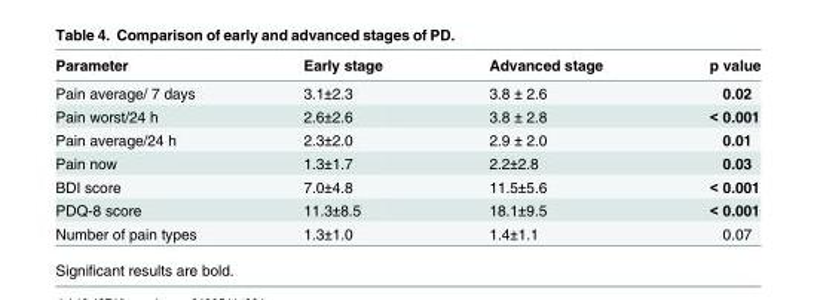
<table><thead><tr><td>Parameter</td><td>Early stage</td><td>Advanced stage</td><td>p value</td></tr></thead><tbody><tr><td>Pain average/ 7 days</td><td>3.1±2.3</td><td>3.8 ± 2.6</td><td>0.02</td></tr><tr><td>Pain worst/24 h</td><td>2.6±2.6</td><td>3.8 ± 2.8</td><td>&lt; 0.001</td></tr><tr><td>Pain average/24 h</td><td>2.3±2.0</td><td>2.9 ± 2.0</td><td>0.01</td></tr><tr><td>Pain now</td><td>1.3±1.7</td><td>2.2±2.8</td><td>0.03</td></tr><tr><td>BDI score</td><td>7.0±4.8</td><td>11.5±5.6</td><td>&lt; 0.001</td></tr><tr><td>PDQ-8 score</td><td>11.3±8.5</td><td>18.1±9.5</td><td>&lt; 0.001</td></tr><tr><td>Number of pain types</td><td>1.3±1.0</td><td>1.4±1.1</td><td>0.07</td></tr></tbody></table>